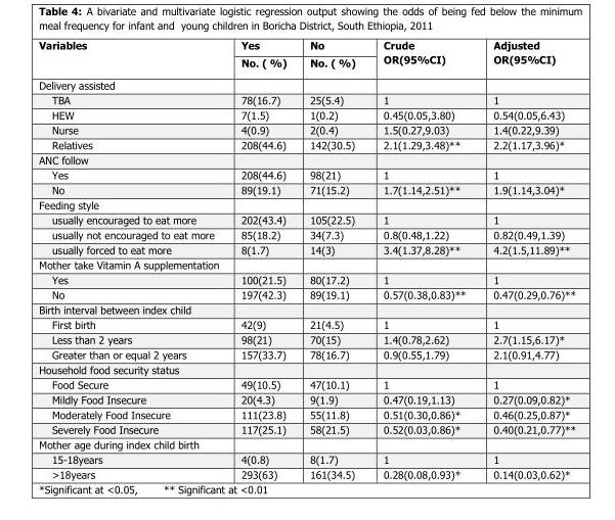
<table><thead><tr><td rowspan="2">Variables</td><td rowspan="2">Yes No. ( %)</td><td rowspan="2">No No. ( %)</td><td rowspan="2">Crude OR(95%CI)</td><td rowspan="2">Adjusted OR(95%CI)</td></tr><tr></tr></thead><tbody><tr><td colspan="5">Delivery assisted</td></tr><tr><td>TBA</td><td>78(16.7)</td><td>25(5.4)</td><td>1</td><td>1</td></tr><tr><td>HEW</td><td>7(1.5)</td><td>1(0.2)</td><td>0.45(0.05,3.80)</td><td>0.54(0.05,6.43)</td></tr><tr><td>Nurse</td><td>4(0.9)</td><td>2(0.4)</td><td>1.5(0.27,9.03)</td><td>1.4(0.22,9.39)</td></tr><tr><td>Relatives</td><td>208(44.6)</td><td>142(30.5)</td><td>2.1(1.29,3.48)**</td><td>2.2(1.17,3.96)*</td></tr><tr><td colspan="5">ANC follow</td></tr><tr><td>Yes</td><td>208(44.6)</td><td>98(21)</td><td>1</td><td>1</td></tr><tr><td>No</td><td>89(19.1)</td><td>71(15.2)</td><td>1.7(1.14,2.51)**</td><td>1.9(1.14,3.04)*</td></tr><tr><td colspan="5">Feeding style</td></tr><tr><td>usually encouraged to eat more</td><td>202(43.4)</td><td>105(22.5)</td><td>1</td><td>1</td></tr><tr><td>usually not encouraged to eat more</td><td>85(18.2)</td><td>34(7.3)</td><td>0.8(0.48,1.22)</td><td>0.82(0.49,1.39)</td></tr><tr><td>usually forced to eat more</td><td>8(1.7)</td><td>14(3)</td><td>3.4(1.37,8.28)**</td><td>4.2(1.5,11.89)**</td></tr><tr><td colspan="5">Mother take Vitamin A supplementation</td></tr><tr><td>Yes</td><td>100(21.5)</td><td>80(17.2)</td><td>1</td><td>1</td></tr><tr><td>No</td><td>197(42.3)</td><td>89(19.1)</td><td>0.57(0.38,0.83)**</td><td>0.47(0.29,0.76)**</td></tr><tr><td colspan="5">Birth interval between index child</td></tr><tr><td>First birth</td><td>42(9)</td><td>21(4.5)</td><td>1</td><td>1</td></tr><tr><td>Less than 2 years</td><td>98(21)</td><td>70(15)</td><td>1.4(0.78,2.62)</td><td>2.7(1.15,6.17)*</td></tr><tr><td>Greater than or equal 2 years</td><td>157(33.7)</td><td>78(16.7)</td><td>0.9(0.55,1.79)</td><td>2.1(0.91,4.77)</td></tr><tr><td colspan="5">Household food security status</td></tr><tr><td>Food Secure</td><td>49(10.5)</td><td>47(10.1)</td><td>1</td><td>1</td></tr><tr><td>Mildly Food Insecure</td><td>20(4.3)</td><td>9(1.9)</td><td>0.47(0.19,1.13)</td><td>0.27(0.09,0.82)*</td></tr><tr><td>Moderately Food Insecure</td><td>111(23.8)</td><td>55(11.8)</td><td>0.51(0.30,0.86)*</td><td>0.46(0.25,0.87)*</td></tr><tr><td>Severely Food Insecure</td><td>117(25.1)</td><td>58(21.5)</td><td>0.52(0.03,0.86)*</td><td>0.40(0.21,0.77)**</td></tr><tr><td colspan="5">Mother age during index child birth</td></tr><tr><td>15-18years</td><td>4(0.8)</td><td>8(1.7)</td><td>1</td><td>1</td></tr><tr><td>&gt;18years</td><td>293(63)</td><td>161(34.5)</td><td>0.28(0.08,0.93)*</td><td>0.14(0.03,0.62)*</td></tr></tbody></table>